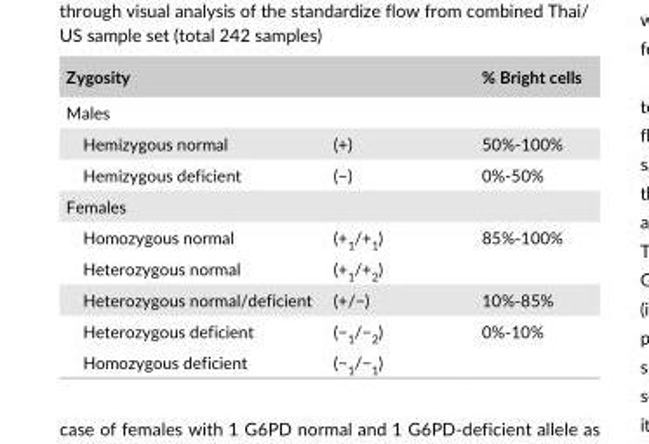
<table><thead><tr><td colspan="2">Zygosity</td><td>% Bright cells</td></tr><tr><td colspan="3">Males</td></tr><tr><td>Hemizygous normal</td><td>(+)</td><td>50%- 100%</td></tr></thead><tbody><tr><td>Hemizygous deficient</td><td>(−)</td><td>0%- 50%</td></tr><tr><td colspan="3">Females</td></tr><tr><td>Homozygous normal</td><td>(+<sub>1</sub>/+<sub>1</sub>)</td><td rowspan="2">85%- 100%</td></tr><tr><td>Heterozygous normal</td><td>(+<sub>1</sub>/+<sub>2</sub>)</td></tr><tr><td>Heterozygous normal/deficient</td><td>(+/−)</td><td>10%- 85%</td></tr><tr><td>Heterozygous deficient</td><td>(−<sub>1</sub>/−<sub>2</sub>)</td><td rowspan="2">0%- 10%</td></tr><tr><td>Homozygous deficient</td><td>(−<sub>1</sub>/−<sub>1</sub>)</td></tr></tbody></table>